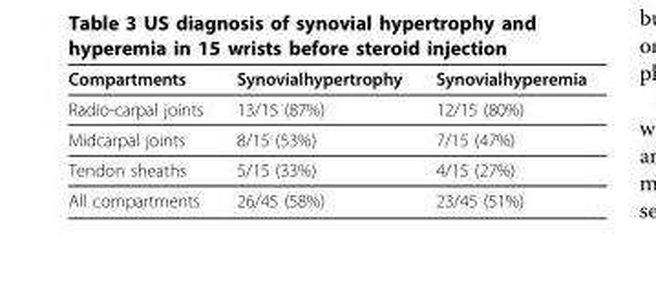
<table><thead><tr><td>Compartments</td><td>Synovialhypertrophy</td><td>Synovialhyperemia</td></tr></thead><tbody><tr><td>Radio-carpal joints</td><td>13/15 (87%)</td><td>12/15 (80%)</td></tr><tr><td>Midcarpal joints</td><td>8/15 (53%)</td><td>7/15 (47%)</td></tr><tr><td>Tendon sheaths</td><td>5/15 (33%)</td><td>4/15 (27%)</td></tr><tr><td>All compartments</td><td>26/45 (58%)</td><td>23/45 (51%)</td></tr></tbody></table>